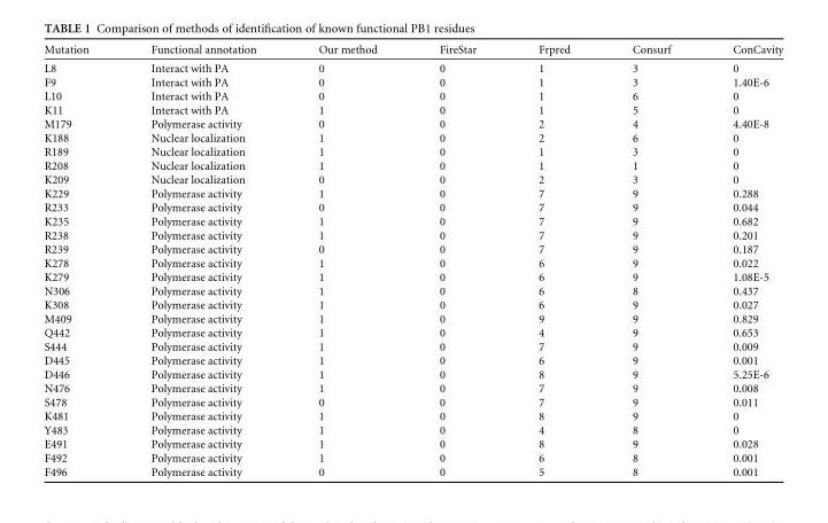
<table><thead><tr><td>Mutation</td><td>Functional annotation</td><td>Our method</td><td>FireStar</td><td>Frpred</td><td>Consurf</td><td>ConCavity</td></tr></thead><tbody><tr><td>L8</td><td>Interact with PA</td><td>0</td><td>0</td><td>1</td><td>3</td><td>0</td></tr><tr><td>F9</td><td>Interact with PA</td><td>0</td><td>0</td><td>1</td><td>3</td><td>1.40E-6</td></tr><tr><td>L10</td><td>Interact with PA</td><td>0</td><td>0</td><td>1</td><td>6</td><td>0</td></tr><tr><td>K11</td><td>Interact with PA</td><td>1</td><td>0</td><td>1</td><td>5</td><td>0</td></tr><tr><td>M179</td><td>Polymerase activity</td><td>0</td><td>0</td><td>2</td><td>4</td><td>4.40E-8</td></tr><tr><td>K188</td><td>Nuclear localization</td><td>1</td><td>0</td><td>2</td><td>6</td><td>0</td></tr><tr><td>R189</td><td>Nuclear localization</td><td>1</td><td>0</td><td>1</td><td>3</td><td>0</td></tr><tr><td>R208</td><td>Nuclear localization</td><td>1</td><td>0</td><td>1</td><td>1</td><td>0</td></tr><tr><td>K209</td><td>Nuclear localization</td><td>0</td><td>0</td><td>2</td><td>3</td><td>0</td></tr><tr><td>K229</td><td>Polymerase activity</td><td>1</td><td>0</td><td>7</td><td>9</td><td>0.288</td></tr><tr><td>R233</td><td>Polymerase activity</td><td>0</td><td>0</td><td>7</td><td>9</td><td>0.044</td></tr><tr><td>K235</td><td>Polymerase activity</td><td>1</td><td>0</td><td>7</td><td>9</td><td>0.682</td></tr><tr><td>R238</td><td>Polymerase activity</td><td>1</td><td>0</td><td>7</td><td>9</td><td>0.201</td></tr><tr><td>R239</td><td>Polymerase activity</td><td>0</td><td>0</td><td>7</td><td>9</td><td>0.187</td></tr><tr><td>K278</td><td>Polymerase activity</td><td>1</td><td>0</td><td>6</td><td>9</td><td>0.022</td></tr><tr><td>K279</td><td>Polymerase activity</td><td>1</td><td>0</td><td>6</td><td>9</td><td>1.08E-5</td></tr><tr><td>N306</td><td>Polymerase activity</td><td>1</td><td>0</td><td>6</td><td>8</td><td>0.437</td></tr><tr><td>K308</td><td>Polymerase activity</td><td>1</td><td>0</td><td>6</td><td>9</td><td>0.027</td></tr><tr><td>M409</td><td>Polymerase activity</td><td>1</td><td>0</td><td>9</td><td>9</td><td>0.829</td></tr><tr><td>Q442</td><td>Polymerase activity</td><td>1</td><td>0</td><td>4</td><td>9</td><td>0.653</td></tr><tr><td>S444</td><td>Polymerase activity</td><td>1</td><td>0</td><td>7</td><td>9</td><td>0.009</td></tr><tr><td>D445</td><td>Polymerase activity</td><td>1</td><td>0</td><td>6</td><td>9</td><td>0.001</td></tr><tr><td>D446</td><td>Polymerase activity</td><td>1</td><td>0</td><td>8</td><td>9</td><td>5.25E-6</td></tr><tr><td>N476</td><td>Polymerase activity</td><td>1</td><td>0</td><td>7</td><td>9</td><td>0.008</td></tr><tr><td>S478</td><td>Polymerase activity</td><td>0</td><td>0</td><td>7</td><td>9</td><td>0.011</td></tr><tr><td>K481</td><td>Polymerase activity</td><td>1</td><td>0</td><td>8</td><td>9</td><td>0</td></tr><tr><td>Y483</td><td>Polymerase activity</td><td>1</td><td>0</td><td>4</td><td>8</td><td>0</td></tr><tr><td>E491</td><td>Polymerase activity</td><td>1</td><td>0</td><td>8</td><td>9</td><td>0.028</td></tr><tr><td>F492</td><td>Polymerase activity</td><td>1</td><td>0</td><td>6</td><td>8</td><td>0.001</td></tr><tr><td>F496</td><td>Polymerase activity</td><td>0</td><td>0</td><td>5</td><td>8</td><td>0.001</td></tr></tbody></table>